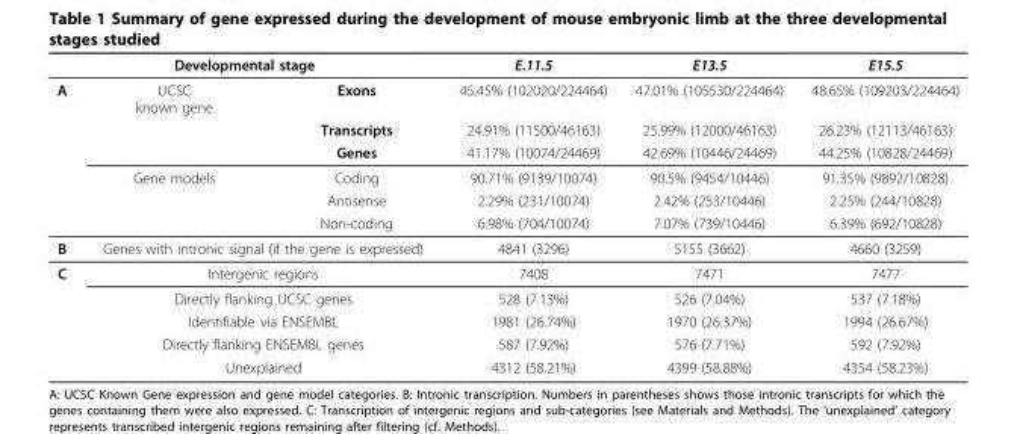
<table><thead><tr><td colspan="3">Developmental stage</td><td rowspan="2">E.11.5 45.45% (102020/224464)</td><td rowspan="2">E13.5 47.01% (105530/224464)</td><td rowspan="2">E15.5 48.65% (109203/224464)</td></tr><tr><td>A</td><td>UCSC known gene</td><td>Exons</td></tr></thead><tbody><tr><td></td><td></td><td>Transcripts</td><td>24.91% (11500/46163)</td><td>25.99% (12000/46163)</td><td>26.23% (12113/46163)</td></tr><tr><td></td><td></td><td>Genes</td><td>41.17% (10074/24469)</td><td>42.69% (10446/24469)</td><td>44.25% (10828/24469)</td></tr><tr><td></td><td>Gene models</td><td>Coding</td><td>90.71% (9139/10074)</td><td>90.5% (9454/10446)</td><td>91.35% (9892/10828)</td></tr><tr><td></td><td></td><td>Antisense</td><td>2.29% (231/10074)</td><td>2.42% (253/10446)</td><td>2.25% (244/10828)</td></tr><tr><td></td><td></td><td>Non-coding</td><td>6.98% (704/10074)</td><td>7.07% (739/10446)</td><td>6.39% (692/10828)</td></tr><tr><td>B</td><td colspan="2">Genes with intronic signal (if the gene is expressed)</td><td>4841 (3296)</td><td>5155 (3662)</td><td>4660 (3259)</td></tr><tr><td rowspan="5">C</td><td colspan="2">Intergenic regions</td><td>7408</td><td>7471</td><td>7477</td></tr><tr><td colspan="2">Directly flanking UCSC genes</td><td>528 (7.13%)</td><td>526 (7.04%)</td><td>537 (7.18%)</td></tr><tr><td colspan="2">Identifiable via ENSEMBL</td><td>1981 (26.74%)</td><td>1970 (26.37%)</td><td>1994 (26.67%)</td></tr><tr><td colspan="2">Directly flanking ENSEMBL genes</td><td>587 (7.92%)</td><td>576 (7.71%)</td><td>592 (7.92%)</td></tr><tr><td colspan="2">Unexplained</td><td>4312 (58.21%)</td><td>4399 (58.88%)</td><td>4354 (58.23%)</td></tr></tbody></table>